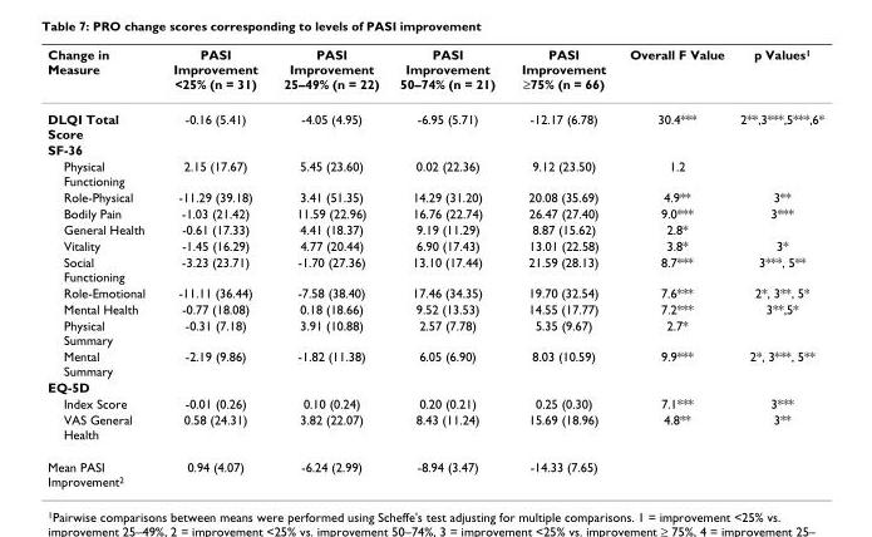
<table><thead><tr><td>Change in Measure</td><td>PASI Improvement &lt;25% (n = 31)</td><td>PASI Improvement 25–49% (n = 22)</td><td>PASI Improvement 50–74% (n = 21)</td><td>PASI Improvement ≥75% (n = 66)</td><td>Overall F Value</td><td>p Values<sup>1</sup></td></tr></thead><tbody><tr><td>DLQI Total Score</td><td>-0.16 (5.41)</td><td>-4.05 (4.95)</td><td>-6.95 (5.71)</td><td>-12.17 (6.78)</td><td>30.4***</td><td>2**,3***,5***,6*</td></tr><tr><td colspan="7">SF-36</td></tr><tr><td>Physical Functioning</td><td>2.15 (17.67)</td><td>5.45 (23.60)</td><td>0.02 (22.36)</td><td>9.12 (23.50)</td><td>1.2</td><td></td></tr><tr><td>Role-Physical</td><td>-11.29 (39.18)</td><td>3.41 (51.35)</td><td>14.29 (31.20)</td><td>20.08 (35.69)</td><td>4.9**</td><td>3**</td></tr><tr><td>Bodily Pain</td><td>-1.03 (21.42)</td><td>11.59 (22.96)</td><td>16.76 (22.74)</td><td>26.47 (27.40)</td><td>9.0***</td><td>3***</td></tr><tr><td>General Health</td><td>-0.61 (17.33)</td><td>4.41 (18.37)</td><td>9.19 (11.29)</td><td>8.87 (15.62)</td><td>2.8*</td><td></td></tr><tr><td>Vitality</td><td>-1.45 (16.29)</td><td>4.77 (20.44)</td><td>6.90 (17.43)</td><td>13.01 (22.58)</td><td>3.8*</td><td>3*</td></tr><tr><td>Social Functioning</td><td>-3.23 (23.71)</td><td>-1.70 (27.36)</td><td>13.10 (17.44)</td><td>21.59 (28.13)</td><td>8.7***</td><td>3***, 5**</td></tr><tr><td>Role-Emotional</td><td>-11.11 (36.44)</td><td>-7.58 (38.40)</td><td>17.46 (34.35)</td><td>19.70 (32.54)</td><td>7.6***</td><td>2*, 3**, 5*</td></tr><tr><td>Mental Health</td><td>-0.77 (18.08)</td><td>0.18 (18.66)</td><td>9.52 (13.53)</td><td>14.55 (17.77)</td><td>7.2***</td><td>3**,5*</td></tr><tr><td>Physical Summary</td><td>-0.31 (7.18)</td><td>3.91 (10.88)</td><td>2.57 (7.78)</td><td>5.35 (9.67)</td><td>2.7*</td><td></td></tr><tr><td>Mental Summary</td><td>-2.19 (9.86)</td><td>-1.82 (11.38)</td><td>6.05 (6.90)</td><td>8.03 (10.59)</td><td>9.9***</td><td>2*, 3***, 5**</td></tr><tr><td colspan="7">EQ-5D</td></tr><tr><td>Index Score</td><td>-0.01 (0.26)</td><td>0.10 (0.24)</td><td>0.20 (0.21)</td><td>0.25 (0.30)</td><td>7.1***</td><td>3***</td></tr><tr><td>VAS General Health</td><td>0.58 (24.31)</td><td>3.82 (22.07)</td><td>8.43 (11.24)</td><td>15.69 (18.96)</td><td>4.8**</td><td>3**</td></tr><tr><td>Mean PASI Improvement<sup>2</sup></td><td>0.94 (4.07)</td><td>-6.24 (2.99)</td><td>-8.94 (3.47)</td><td>-14.33 (7.65)</td><td></td><td></td></tr></tbody></table>